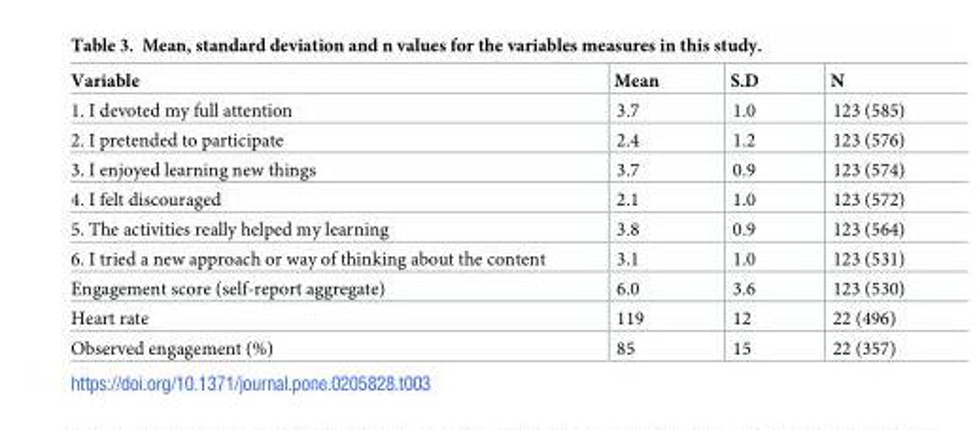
<table><thead><tr><td>Variable</td><td>Mean</td><td>S.D</td><td>N</td></tr></thead><tbody><tr><td>1. I devoted my full attention</td><td>3.7</td><td>1.0</td><td>123 (585)</td></tr><tr><td>2. I pretended to participate</td><td>2.4</td><td>1.2</td><td>123 (576)</td></tr><tr><td>3. I enjoyed learning new things</td><td>3.7</td><td>0.9</td><td>123 (574)</td></tr><tr><td>4. I felt discouraged</td><td>2.1</td><td>1.0</td><td>123 (572)</td></tr><tr><td>5. The activities really helped my learning</td><td>3.8</td><td>0.9</td><td>123 (564)</td></tr><tr><td>6. I tried a new approach or way of thinking about the content</td><td>3.1</td><td>1.0</td><td>123 (531)</td></tr><tr><td>Engagement score (self-report aggregate)</td><td>6.0</td><td>3.6</td><td>123 (530)</td></tr><tr><td>Heart rate</td><td>119</td><td>12</td><td>22 (496)</td></tr><tr><td>Observed engagement (%)</td><td>85</td><td>15</td><td>22 (357)</td></tr></tbody></table>